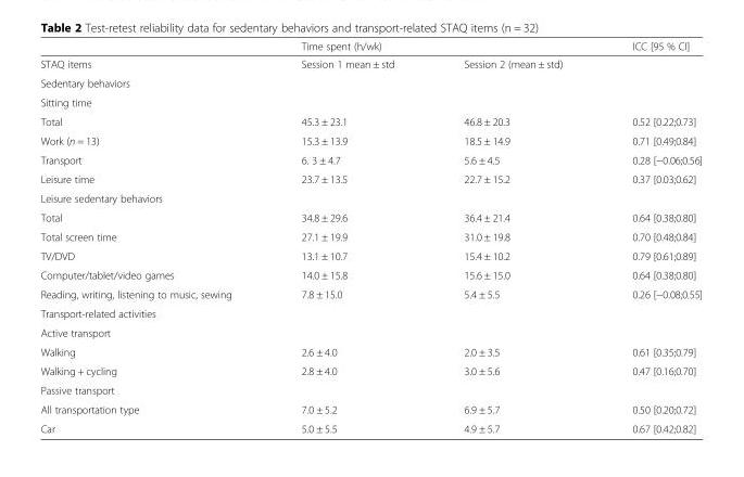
<table><thead><tr><td rowspan="2">STAQ items</td><td colspan="2">Time spent (h/wk)</td><td rowspan="2">ICC [95 % CI]</td></tr><tr><td>Session 1 mean ± std</td><td>Session 2 (mean ± std)</td></tr></thead><tbody><tr><td colspan="4">Sedentary behaviors</td></tr><tr><td colspan="4">Sitting time</td></tr><tr><td>Total</td><td>45.3 ± 23.1</td><td>46.8 ± 20.3</td><td>0.52 [0.22;0.73]</td></tr><tr><td>Work (n = 13)</td><td>15.3 ± 13.9</td><td>18.5 ± 14.9</td><td>0.71 [0.49;0.84]</td></tr><tr><td>Transport</td><td>6. 3 ± 4.7</td><td>5.6 ± 4.5</td><td>0.28 [−0.06;0.56]</td></tr><tr><td>Leisure time</td><td>23.7 ± 13.5</td><td>22.7 ± 15.2</td><td>0.37 [0.03;0.62]</td></tr><tr><td colspan="4">Leisure sedentary behaviors</td></tr><tr><td>Total</td><td>34.8 ± 29.6</td><td>36.4 ± 21.4</td><td>0.64 [0.38;0.80]</td></tr><tr><td>Total screen time</td><td>27.1 ± 19.9</td><td>31.0 ± 19.8</td><td>0.70 [0.48;0.84]</td></tr><tr><td>TV/DVD</td><td>13.1 ± 10.7</td><td>15.4 ± 10.2</td><td>0.79 [0.61;0.89]</td></tr><tr><td>Computer/tablet/video games</td><td>14.0 ± 15.8</td><td>15.6 ± 15.0</td><td>0.64 [0.38;0.80]</td></tr><tr><td>Reading, writing, listening to music, sewing</td><td>7.8 ± 15.0</td><td>5.4 ± 5.5</td><td>0.26 [−0.08;0.55]</td></tr><tr><td colspan="4">Transport-related activities</td></tr><tr><td colspan="4">Active transport</td></tr><tr><td>Walking</td><td>2.6 ± 4.0</td><td>2.0 ± 3.5</td><td>0.61 [0.35;0.79]</td></tr><tr><td>Walking + cycling</td><td>2.8 ± 4.0</td><td>3.0 ± 5.6</td><td>0.47 [0.16;0.70]</td></tr><tr><td colspan="4">Passive transport</td></tr><tr><td>All transportation type</td><td>7.0 ± 5.2</td><td>6.9 ± 5.7</td><td>0.50 [0.20;0.72]</td></tr><tr><td>Car</td><td>5.0 ± 5.5</td><td>4.9 ± 5.7</td><td>0.67 [0.42;0.82]</td></tr></tbody></table>